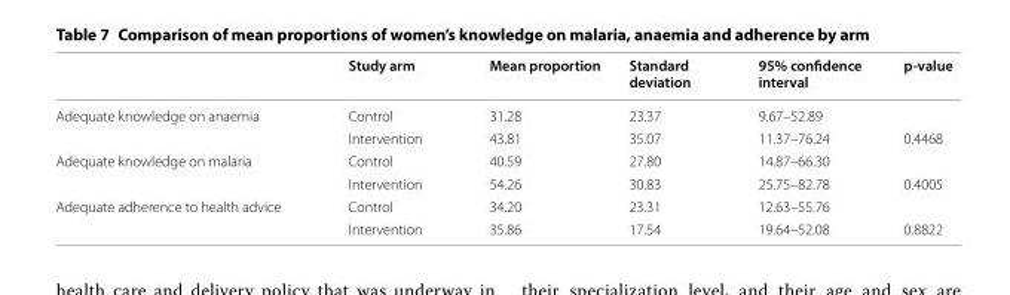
<table><thead><tr><td></td><td>Study arm</td><td>Mean proportion</td><td>Standard deviation</td><td>95% confidence interval</td><td>p-value</td></tr></thead><tbody><tr><td rowspan="2">Adequate knowledge on anaemia</td><td>Control</td><td>31.28</td><td>23.37</td><td>9.67–52.89</td><td></td></tr><tr><td>Intervention</td><td>43.81</td><td>35.07</td><td>11.37–76.24</td><td>0.4468</td></tr><tr><td rowspan="2">Adequate knowledge on malaria</td><td>Control</td><td>40.59</td><td>27.80</td><td>14.87–66.30</td><td></td></tr><tr><td>Intervention</td><td>54.26</td><td>30.83</td><td>25.75–82.78</td><td>0.4005</td></tr><tr><td rowspan="2">Adequate adherence to health advice</td><td>Control</td><td>34.20</td><td>23.31</td><td>12.63–55.76</td><td></td></tr><tr><td>Intervention</td><td>35.86</td><td>17.54</td><td>19.64–52.08</td><td>0.8822</td></tr></tbody></table>